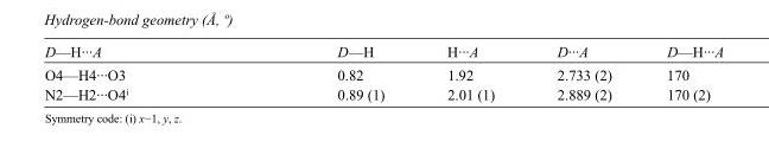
<table><tbody><tr><td>D—H···A</td><td>D—H</td><td>H···A</td><td>D···A</td><td>D—H···A</td></tr><tr><td>O4—H4···O3</td><td>0.82</td><td>1.92</td><td>2.733 (2)</td><td>170</td></tr><tr><td>N2—H2···O4<sup>i</sup></td><td>0.89 (1)</td><td>2.01 (1)</td><td>2.889 (2)</td><td>170 (2)</td></tr></tbody></table>